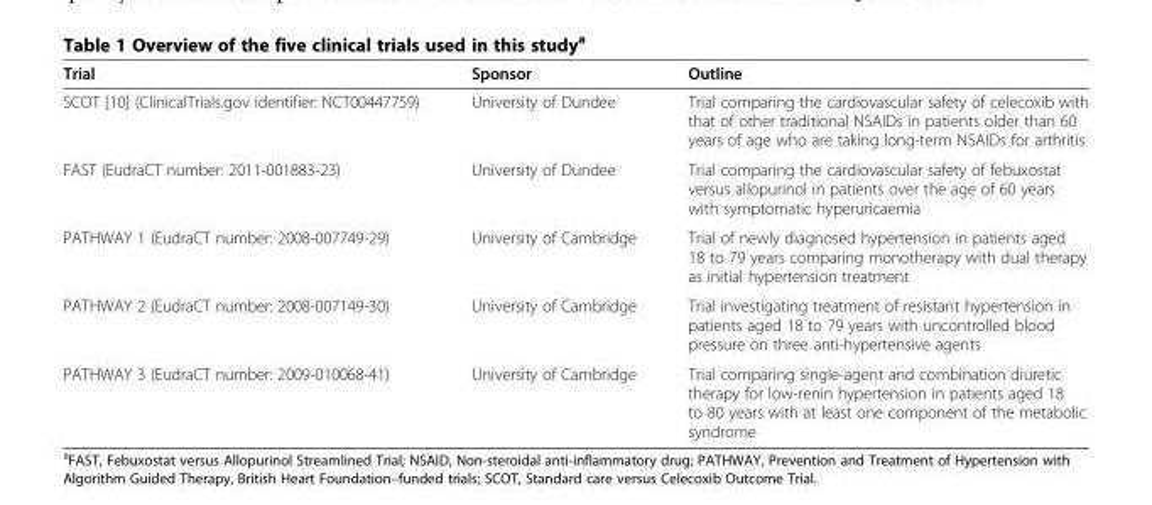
<table><thead><tr><td>Trial</td><td>Sponsor</td><td>Outline</td></tr></thead><tbody><tr><td>SCOT [10] (ClinicalTrials.gov identifier: NCT00447759)</td><td>University of Dundee</td><td>Trial comparing the cardiovascular safety of celecoxib with that of other traditional NSAIDs in patients older than 60 years of age who are taking long-term NSAIDs for arthritis</td></tr><tr><td>FAST (EudraCT number: 2011-001883-23)</td><td>University of Dundee</td><td>Trial comparing the cardiovascular safety of febuxostat versus allopurinol in patients over the age of 60 years with symptomatic hyperuricaemia</td></tr><tr><td>PATHWAY 1 (EudraCT number: 2008-007749-29)</td><td>University of Cambridge</td><td>Trial of newly diagnosed hypertension in patients aged 18 to 79 years comparing monotherapy with dual therapy as initial hypertension treatment</td></tr><tr><td>PATHWAY 2 (EudraCT number: 2008-007149-30)</td><td>University of Cambridge</td><td>Trial investigating treatment of resistant hypertension in patients aged 18 to 79 years with uncontrolled blood pressure on three anti-hypertensive agents</td></tr><tr><td>PATHWAY 3 (EudraCT number: 2009-010068-41)</td><td>University of Cambridge</td><td>Trial comparing single-agent and combination diuretic therapy for low-renin hypertension in patients aged 18 to 80 years with at least one component of the metabolic syndrome</td></tr></tbody></table>